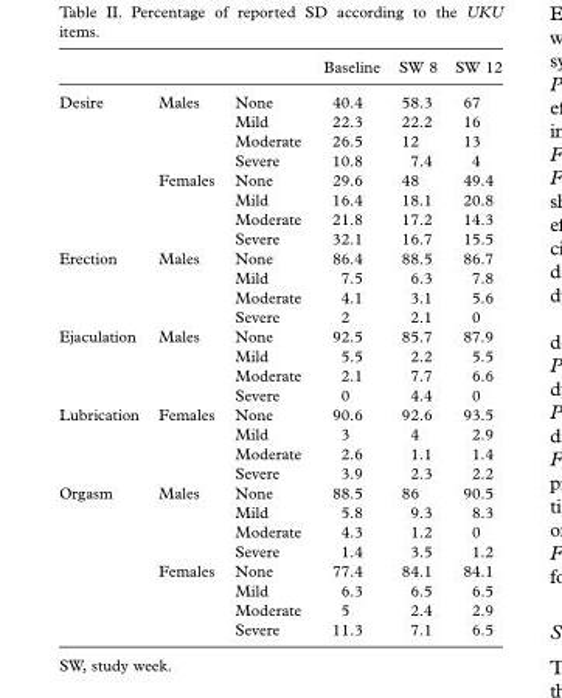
<table><thead><tr><td></td><td></td><td></td><td>Baseline</td><td>SW 8</td><td>SW 12</td></tr></thead><tbody><tr><td rowspan="8">Desire</td><td>Males</td><td>None</td><td>40.4</td><td>58.3</td><td>67</td></tr><tr><td></td><td>Mild</td><td>22.3</td><td>22.2</td><td>16</td></tr><tr><td></td><td>Moderate</td><td>26.5</td><td>12</td><td>13</td></tr><tr><td></td><td>Severe</td><td>10.8</td><td>7.4</td><td>4</td></tr><tr><td>Females</td><td>None</td><td>29.6</td><td>48</td><td>49.4</td></tr><tr><td></td><td>Mild</td><td>16.4</td><td>18.1</td><td>20.8</td></tr><tr><td></td><td>Moderate</td><td>21.8</td><td>17.2</td><td>14.3</td></tr><tr><td></td><td>Severe</td><td>32.1</td><td>16.7</td><td>15.5</td></tr><tr><td rowspan="4">Erection</td><td>Males</td><td>None</td><td>86.4</td><td>88.5</td><td>86.7</td></tr><tr><td></td><td>Mild</td><td>7.5</td><td>6.3</td><td>7.8</td></tr><tr><td></td><td>Moderate</td><td>4.1</td><td>3.1</td><td>5.6</td></tr><tr><td></td><td>Severe</td><td>2</td><td>2.1</td><td>0</td></tr><tr><td rowspan="4">Ejaculation</td><td>Males</td><td>None</td><td>92.5</td><td>85.7</td><td>87.9</td></tr><tr><td></td><td>Mild</td><td>5.5</td><td>2.2</td><td>5.5</td></tr><tr><td></td><td>Moderate</td><td>2.1</td><td>7.7</td><td>6.6</td></tr><tr><td></td><td>Severe</td><td>0</td><td>4.4</td><td>0</td></tr><tr><td rowspan="4">Lubrication</td><td>Females</td><td>None</td><td>90.6</td><td>92.6</td><td>93.5</td></tr><tr><td></td><td>Mild</td><td>3</td><td>4</td><td>2.9</td></tr><tr><td></td><td>Moderate</td><td>2.6</td><td>1.1</td><td>1.4</td></tr><tr><td></td><td>Severe</td><td>3.9</td><td>2.3</td><td>2.2</td></tr><tr><td rowspan="8">Orgasm</td><td>Males</td><td>None</td><td>88.5</td><td>86</td><td>90.5</td></tr><tr><td></td><td>Mild</td><td>5.8</td><td>9.3</td><td>8.3</td></tr><tr><td></td><td>Moderate</td><td>4.3</td><td>1.2</td><td>0</td></tr><tr><td></td><td>Severe</td><td>1.4</td><td>3.5</td><td>1.2</td></tr><tr><td>Females</td><td>None</td><td>77.4</td><td>84.1</td><td>84.1</td></tr><tr><td></td><td>Mild</td><td>6.3</td><td>6.5</td><td>6.5</td></tr><tr><td></td><td>Moderate</td><td>5</td><td>2.4</td><td>2.9</td></tr><tr><td></td><td>Severe</td><td>11.3</td><td>7.1</td><td>6.5</td></tr></tbody></table>